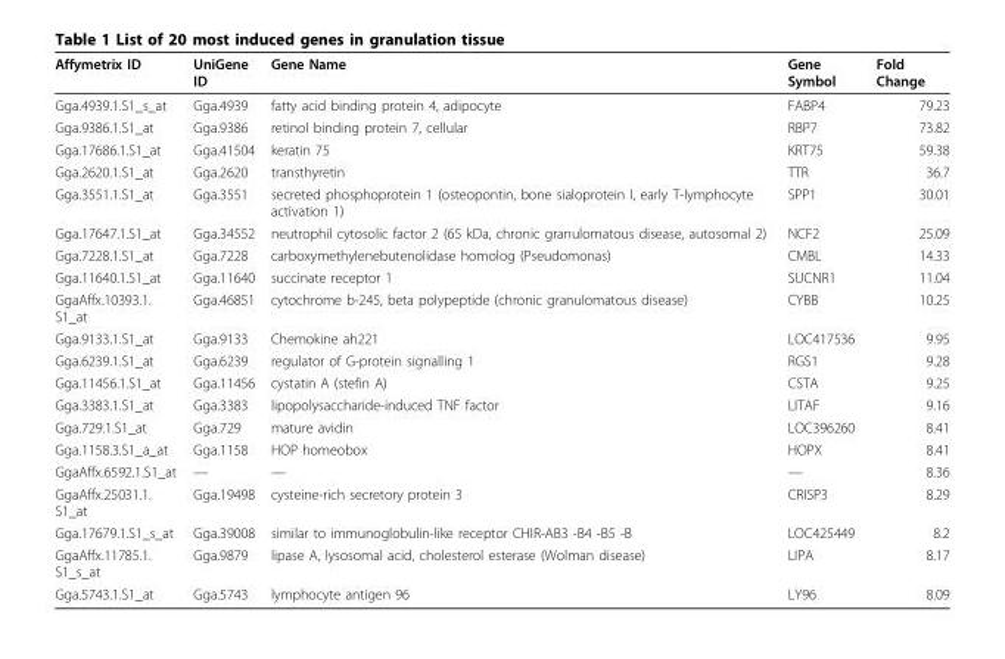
<table><thead><tr><td>Affymetrix ID</td><td>UniGene ID</td><td>Gene Name</td><td>Gene Symbol</td><td>Fold Change</td></tr></thead><tbody><tr><td>Gga.4939.1.S1_s_at</td><td>Gga.4939</td><td>fatty acid binding protein 4, adipocyte</td><td>FABP4</td><td>79.23</td></tr><tr><td>Gga.9386.1.S1_at</td><td>Gga.9386</td><td>retinol binding protein 7, cellular</td><td>RBP7</td><td>73.82</td></tr><tr><td>Gga.17686.1.S1_at</td><td>Gga.41504</td><td>keratin 75</td><td>KRT75</td><td>59.38</td></tr><tr><td>Gga.2620.1.S1_at</td><td>Gga.2620</td><td>transthyretin</td><td>TTR</td><td>36.7</td></tr><tr><td>Gga.3551.1.S1_at</td><td>Gga.3551</td><td>secreted phosphoprotein 1 (osteopontin, bone sialoprotein I, early T-lymphocyte activation 1)</td><td>SPP1</td><td>30.01</td></tr><tr><td>Gga.17647.1.S1_at</td><td>Gga.34552</td><td>neutrophil cytosolic factor 2 (65 kDa, chronic granulomatous disease, autosomal 2)</td><td>NCF2</td><td>25.09</td></tr><tr><td>Gga.7228.1.S1_at</td><td>Gga.7228</td><td>carboxymethylenebutenolidase homolog (Pseudomonas)</td><td>CMBL</td><td>14.33</td></tr><tr><td>Gga.11640.1.S1_at</td><td>Gga.11640</td><td>succinate receptor 1</td><td>SUCNR1</td><td>11.04</td></tr><tr><td>GgaAffx.10393.1. S1_at</td><td>Gga.46851</td><td>cytochrome b-245, beta polypeptide (chronic granulomatous disease)</td><td>CYBB</td><td>10.25</td></tr><tr><td>Gga.9133.1.S1_at</td><td>Gga.9133</td><td>Chemokine ah221</td><td>LOC417536</td><td>9.95</td></tr><tr><td>Gga.6239.1.S1_at</td><td>Gga.6239</td><td>regulator of G-protein signalling 1</td><td>RGS1</td><td>9.28</td></tr><tr><td>Gga.11456.1.S1_at</td><td>Gga.11456</td><td>cystatin A (stefin A)</td><td>CSTA</td><td>9.25</td></tr><tr><td>Gga.3383.1.S1_at</td><td>Gga.3383</td><td>lipopolysaccharide-induced TNF factor</td><td>LITAF</td><td>9.16</td></tr><tr><td>Gga.729.1.S1_at</td><td>Gga.729</td><td>mature avidin</td><td>LOC396260</td><td>8.41</td></tr><tr><td>Gga.1158.3.S1_a_at</td><td>Gga.1158</td><td>HOP homeobox</td><td>HOPX</td><td>8.41</td></tr><tr><td>GgaAffx.6592.1.S1_at</td><td>—</td><td>—</td><td>—</td><td>8.36</td></tr><tr><td>GgaAffx.25031.1. S1_at</td><td>Gga.19498</td><td>cysteine-rich secretory protein 3</td><td>CRISP3</td><td>8.29</td></tr><tr><td>Gga.17679.1.S1_s_at</td><td>Gga.39008</td><td>similar to immunoglobulin-like receptor CHIR-AB3 -B4 -B5 -B</td><td>LOC425449</td><td>8.2</td></tr><tr><td>GgaAffx.11785.1. S1_s_at</td><td>Gga.9879</td><td>lipase A, lysosomal acid, cholesterol esterase (Wolman disease)</td><td>LIPA</td><td>8.17</td></tr><tr><td>Gga.5743.1.S1_at</td><td>Gga.5743</td><td>lymphocyte antigen 96</td><td>LY96</td><td>8.09</td></tr></tbody></table>